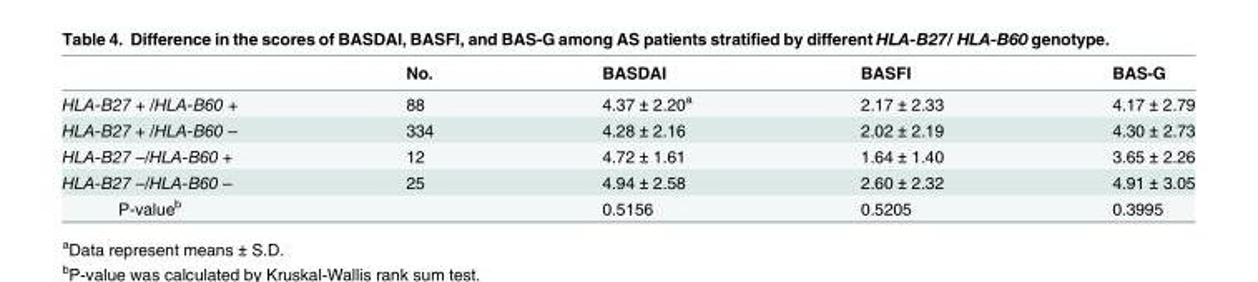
<table><thead><tr><td></td><td>No.</td><td>BASDAI</td><td>BASFI</td><td>BAS-G</td></tr></thead><tbody><tr><td>HLA-B27 + /HLA-B60 +</td><td>88</td><td>4.37 ± 2.20<sup>a</sup></td><td>2.17 ± 2.33</td><td>4.17 ± 2.79</td></tr><tr><td>HLA-B27 + /HLA-B60 –</td><td>334</td><td>4.28 ± 2.16</td><td>2.02 ± 2.19</td><td>4.30 ± 2.73</td></tr><tr><td>HLA-B27 –/HLA-B60 +</td><td>12</td><td>4.72 ± 1.61</td><td>1.64 ± 1.40</td><td>3.65 ± 2.26</td></tr><tr><td>HLA-B27 –/HLA-B60 –</td><td>25</td><td>4.94 ± 2.58</td><td>2.60 ± 2.32</td><td>4.91 ± 3.05</td></tr><tr><td>P-value<sup>b</sup></td><td></td><td>0.5156</td><td>0.5205</td><td>0.3995</td></tr></tbody></table>